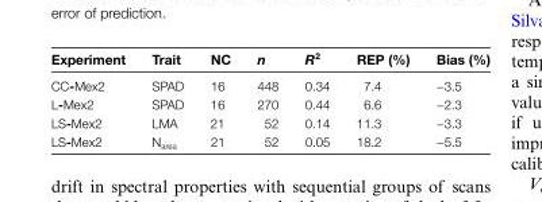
<table><thead><tr><td>Experiment</td><td>Trait</td><td>NC</td><td>n</td><td>R<sup>2</sup></td><td>REP (%)</td><td>Bias (%)</td></tr></thead><tbody><tr><td>CC-Mex2</td><td>SPAD</td><td>16</td><td>448</td><td>0.34</td><td>7.4</td><td>−3.5</td></tr><tr><td>L-Mex2</td><td>SPAD</td><td>16</td><td>270</td><td>0.44</td><td>6.6</td><td>−2.3</td></tr><tr><td>LS-Mex2</td><td>LMA</td><td>21</td><td>52</td><td>0.14</td><td>11.3</td><td>−3.3</td></tr><tr><td>LS-Mex2</td><td>N<sub>area</sub></td><td>21</td><td>52</td><td>0.05</td><td>18.2</td><td>−5.5</td></tr></tbody></table>